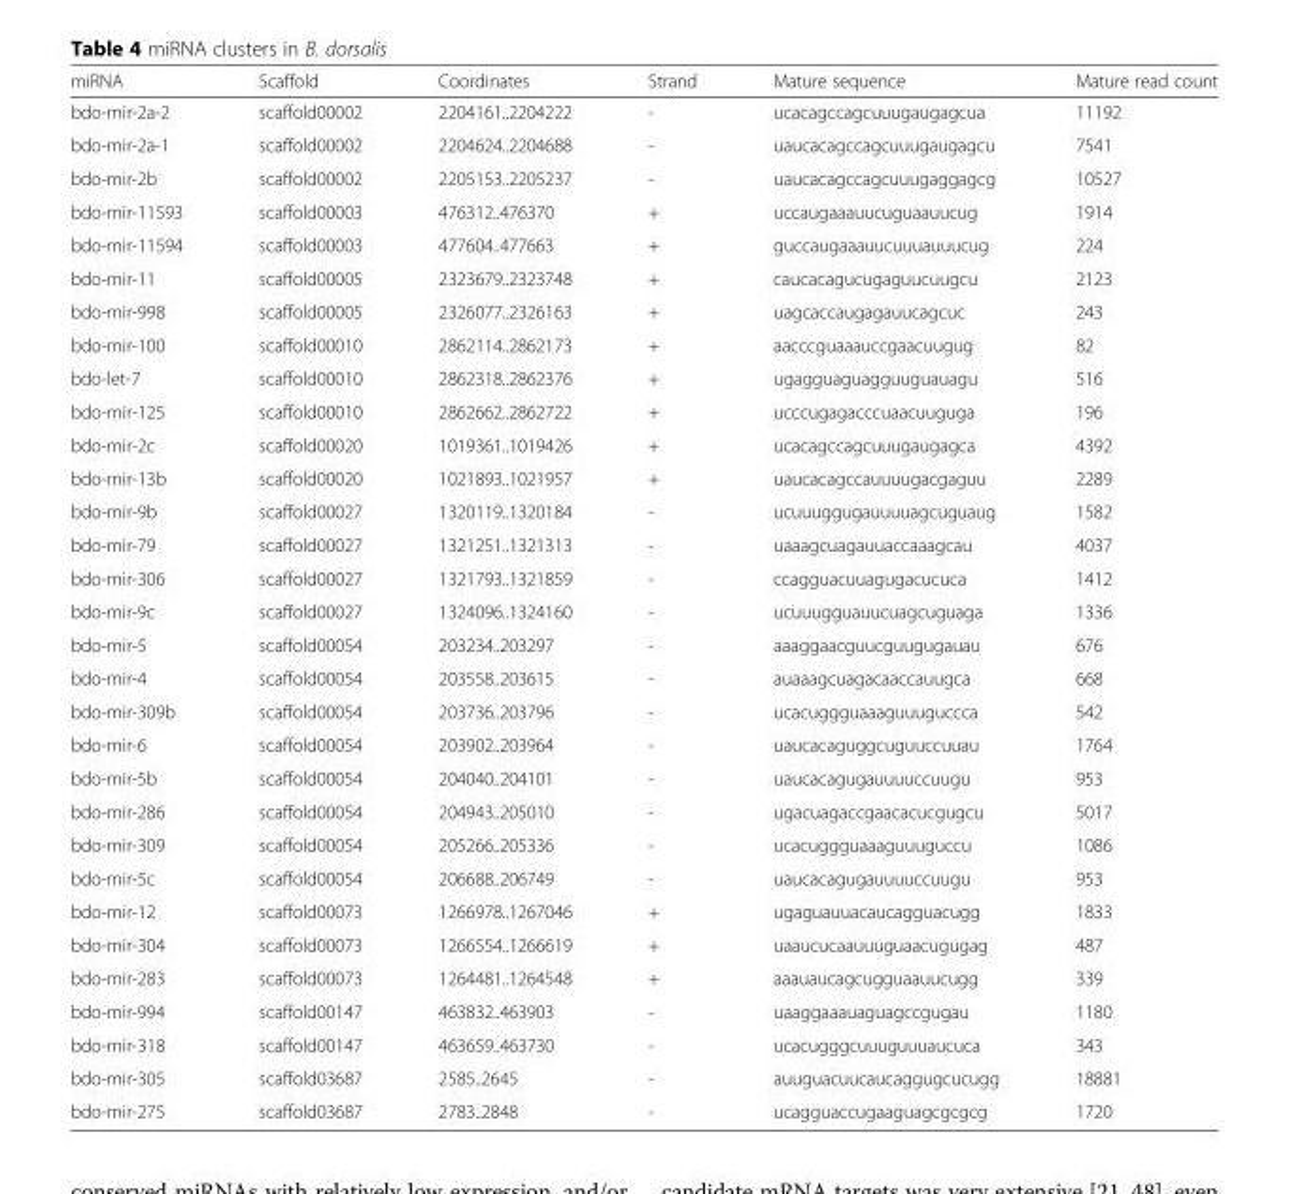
<table><thead><tr><td>miRNA</td><td>Scaffold</td><td>Coordinates</td><td>Strand</td><td>Mature sequence</td><td>Mature read count</td></tr></thead><tbody><tr><td>bdo-mir-2a-2</td><td>scaffold00002</td><td>2204161..2204222</td><td>-</td><td>ucacagccagcuuugaugagcua</td><td>11192</td></tr><tr><td>bdo-mir-2a-1</td><td>scaffold00002</td><td>2204624..2204688</td><td>-</td><td>uaucacagccagcuuugaugagcu</td><td>7541</td></tr><tr><td>bdo-mir-2b</td><td>scaffold00002</td><td>2205153..2205237</td><td>-</td><td>uaucacagccagcuuugaggagcg</td><td>10527</td></tr><tr><td>bdo-mir-11593</td><td>scaffold00003</td><td>476312..476370</td><td>+</td><td>uccaugaaauucuguaauucug</td><td>1914</td></tr><tr><td>bdo-mir-11594</td><td>scaffold00003</td><td>477604..477663</td><td>+</td><td>guccaugaaauucuuuauuucug</td><td>224</td></tr><tr><td>bdo-mir-11</td><td>scaffold00005</td><td>2323679..2323748</td><td>+</td><td>caucacagucugaguucuugcu</td><td>2123</td></tr><tr><td>bdo-mir-998</td><td>scaffold00005</td><td>2326077..2326163</td><td>+</td><td>uagcaccaugagauucagcuc</td><td>243</td></tr><tr><td>bdo-mir-100</td><td>scaffold00010</td><td>2862114..2862173</td><td>+</td><td>aacccguaaauccgaacuugug</td><td>82</td></tr><tr><td>bdo-let-7</td><td>scaffold00010</td><td>2862318..2862376</td><td>+</td><td>ugagguaguagguuguauagu</td><td>516</td></tr><tr><td>bdo-mir-125</td><td>scaffold00010</td><td>2862662..2862722</td><td>+</td><td>ucccugagacccuaacuuguga</td><td>196</td></tr><tr><td>bdo-mir-2c</td><td>scaffold00020</td><td>1019361..1019426</td><td>+</td><td>ucacagccagcuuugaugagca</td><td>4392</td></tr><tr><td>bdo-mir-13b</td><td>scaffold00020</td><td>1021893..1021957</td><td>+</td><td>uaucacagccauuuugacgaguu</td><td>2289</td></tr><tr><td>bdo-mir-9b</td><td>scaffold00027</td><td>1320119..1320184</td><td>-</td><td>ucuuuggugauuuuagcuguaug</td><td>1582</td></tr><tr><td>bdo-mir-79</td><td>scaffold00027</td><td>1321251..1321313</td><td>-</td><td>uaaagcuagauuaccaaagcau</td><td>4037</td></tr><tr><td>bdo-mir-306</td><td>scaffold00027</td><td>1321793..1321859</td><td>-</td><td>ccagguacuuagugacucuca</td><td>1412</td></tr><tr><td>bdo-mir-9c</td><td>scaffold00027</td><td>1324096..1324160</td><td>-</td><td>ucuuugguauucuagcuguaga</td><td>1336</td></tr><tr><td>bdo-mir-5</td><td>scaffold00054</td><td>203234..203297</td><td>-</td><td>aaaggaacguucguugugauau</td><td>676</td></tr><tr><td>bdo-mir-4</td><td>scaffold00054</td><td>203558..203615</td><td>-</td><td>auaaagcuagacaaccauugca</td><td>668</td></tr><tr><td>bdo-mir-309b</td><td>scaffold00054</td><td>203736..203796</td><td>-</td><td>ucacuggguaaaguuuguccca</td><td>542</td></tr><tr><td>bdo-mir-6</td><td>scaffold00054</td><td>203902..203964</td><td>-</td><td>uaucacaguggcuguuccuuau</td><td>1764</td></tr><tr><td>bdo-mir-5b</td><td>scaffold00054</td><td>204040..204101</td><td>-</td><td>uaucacagugauuuuccuugu</td><td>953</td></tr><tr><td>bdo-mir-286</td><td>scaffold00054</td><td>204943..205010</td><td>-</td><td>ugacuagaccgaacacucgugcu</td><td>5017</td></tr><tr><td>bdo-mir-309</td><td>scaffold00054</td><td>205266..205336</td><td>-</td><td>ucacuggguaaaguuuguccu</td><td>1086</td></tr><tr><td>bdo-mir-5c</td><td>scaffold00054</td><td>206688..206749</td><td>-</td><td>uaucacagugauuuuccuugu</td><td>953</td></tr><tr><td>bdo-mir-12</td><td>scaffold00073</td><td>1266978..1267046</td><td>+</td><td>ugaguauuacaucagguacugg</td><td>1833</td></tr><tr><td>bdo-mir-304</td><td>scaffold00073</td><td>1266554..1266619</td><td>+</td><td>uaaucucaauuuguaacugugag</td><td>487</td></tr><tr><td>bdo-mir-283</td><td>scaffold00073</td><td>1264481..1264548</td><td>+</td><td>aaauaucagcugguaauucugg</td><td>339</td></tr><tr><td>bdo-mir-994</td><td>scaffold00147</td><td>463832..463903</td><td>-</td><td>uaaggaaauaguagccgugau</td><td>1180</td></tr><tr><td>bdo-mir-318</td><td>scaffold00147</td><td>463659..463730</td><td>-</td><td>ucacugggcuuuguuuaucuca</td><td>343</td></tr><tr><td>bdo-mir-305</td><td>scaffold03687</td><td>2585..2645</td><td>-</td><td>auuguacuucaucaggugcucugg</td><td>18881</td></tr><tr><td>bdo-mir-275</td><td>scaffold03687</td><td>2783..2848</td><td>-</td><td>ucagguaccugaaguagcgcgcg</td><td>1720</td></tr></tbody></table>